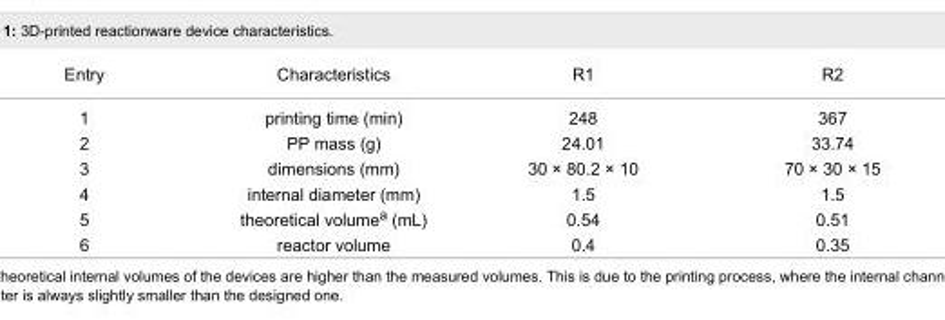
<table><tbody><tr><td>Entry</td><td>Characteristics</td><td>R1</td><td>R2</td></tr><tr><td>1</td><td>printing time (min)</td><td>248</td><td>367</td></tr><tr><td>2</td><td>PP mass (g)</td><td>24.01</td><td>33.74</td></tr><tr><td>3</td><td>dimensions (mm)</td><td>30 × 80.2 × 10</td><td>70 × 30 × 15</td></tr><tr><td>4</td><td>internal diameter (mm)</td><td>1.5</td><td>1.5</td></tr><tr><td>5</td><td>theoretical volume<sup>a</sup> (mL)</td><td>0.54</td><td>0.51</td></tr><tr><td>6</td><td>reactor volume</td><td>0.4</td><td>0.35</td></tr></tbody></table>